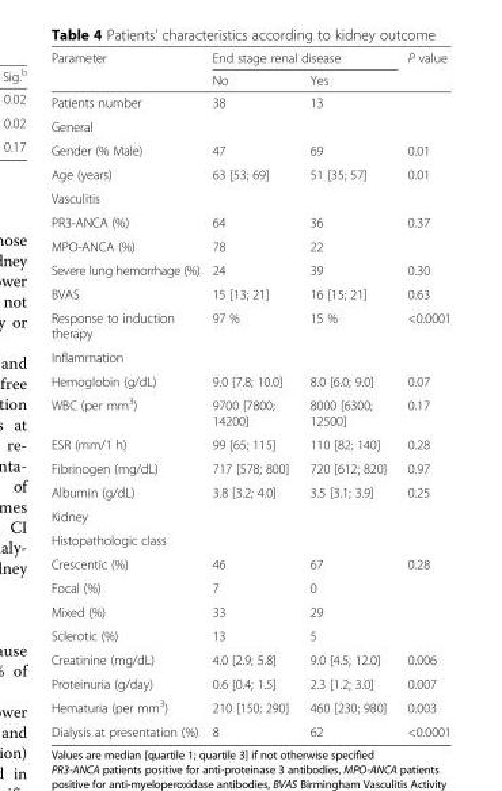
<table><thead><tr><td rowspan="2">Parameter</td><td colspan="2">End stage renal disease</td><td rowspan="2">P value</td></tr><tr><td>No</td><td>Yes</td></tr></thead><tbody><tr><td>Patients number</td><td>38</td><td>13</td><td></td></tr><tr><td colspan="4">General</td></tr><tr><td>Gender (% Male)</td><td>47</td><td>69</td><td>0.01</td></tr><tr><td>Age (years)</td><td>63 [53; 69]</td><td>51 [35; 57]</td><td>0.01</td></tr><tr><td colspan="4">Vasculitis</td></tr><tr><td>PR3-ANCA (%)</td><td>64</td><td>36</td><td rowspan="2">0.37</td></tr><tr><td>MPO-ANCA (%)</td><td>78</td><td>22</td></tr><tr><td>Severe lung hemorrhage (%)</td><td>24</td><td>39</td><td>0.30</td></tr><tr><td>BVAS</td><td>15 [13; 21]</td><td>16 [15; 21]</td><td>0.63</td></tr><tr><td>Response to induction therapy</td><td>97 %</td><td>15 %</td><td>&lt;0.0001</td></tr><tr><td colspan="4">Inflammation</td></tr><tr><td>Hemoglobin (g/dL)</td><td>9.0 [7.8; 10.0]</td><td>8.0 [6.0; 9.0]</td><td>0.07</td></tr><tr><td>WBC (per mm<sup>3</sup>)</td><td>9700 [7800; 14200]</td><td>8000 [6300; 12500]</td><td>0.17</td></tr><tr><td>ESR (mm/1 h)</td><td>99 [65; 115]</td><td>110 [82; 140]</td><td>0.28</td></tr><tr><td>Fibrinogen (mg/dL)</td><td>717 [578; 800]</td><td>720 [612; 820]</td><td>0.97</td></tr><tr><td>Albumin (g/dL)</td><td>3.8 [3.2; 4.0]</td><td>3.5 [3.1; 3.9]</td><td>0.25</td></tr><tr><td colspan="4">Kidney</td></tr><tr><td colspan="4">Histopathologic class</td></tr><tr><td>Crescentic (%)</td><td>46</td><td>67</td><td rowspan="4">0.28</td></tr><tr><td>Focal (%)</td><td>7</td><td>0</td></tr><tr><td>Mixed (%)</td><td>33</td><td>29</td></tr><tr><td>Sclerotic (%)</td><td>13</td><td>5</td></tr><tr><td>Creatinine (mg/dL)</td><td>4.0 [2.9; 5.8]</td><td>9.0 [4.5; 12.0]</td><td>0.006</td></tr><tr><td>Proteinuria (g/day)</td><td>0.6 [0.4; 1.5]</td><td>2.3 [1.2; 3.0]</td><td>0.007</td></tr><tr><td>Hematuria (per mm<sup>3</sup>)</td><td>210 [150; 290]</td><td>460 [230; 980]</td><td>0.003</td></tr><tr><td>Dialysis at presentation (%)</td><td>8</td><td>62</td><td>&lt;0.0001</td></tr></tbody></table>